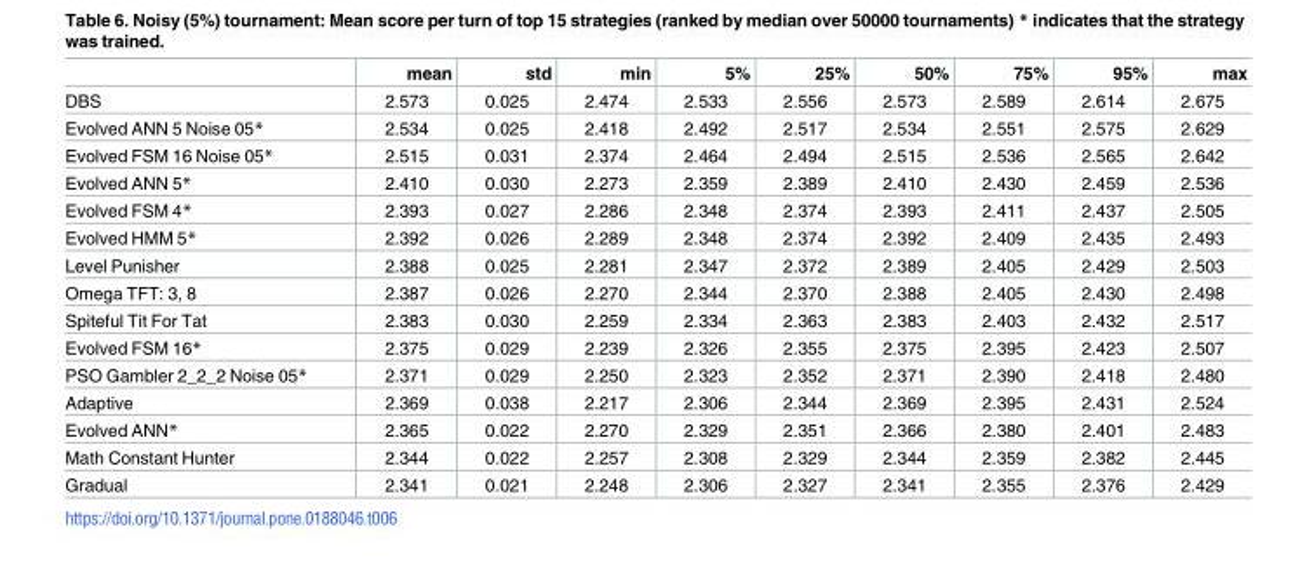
<table><thead><tr><td></td><td>mean</td><td>std</td><td>min</td><td>5%</td><td>25%</td><td>50%</td><td>75%</td><td>95%</td><td>max</td></tr></thead><tbody><tr><td>DBS</td><td>2.573</td><td>0.025</td><td>2.474</td><td>2.533</td><td>2.556</td><td>2.573</td><td>2.589</td><td>2.614</td><td>2.675</td></tr><tr><td>Evolved ANN 5 Noise 05*</td><td>2.534</td><td>0.025</td><td>2.418</td><td>2.492</td><td>2.517</td><td>2.534</td><td>2.551</td><td>2.575</td><td>2.629</td></tr><tr><td>Evolved FSM 16 Noise 05*</td><td>2.515</td><td>0.031</td><td>2.374</td><td>2.464</td><td>2.494</td><td>2.515</td><td>2.536</td><td>2.565</td><td>2.642</td></tr><tr><td>Evolved ANN 5*</td><td>2.410</td><td>0.030</td><td>2.273</td><td>2.359</td><td>2.389</td><td>2.410</td><td>2.430</td><td>2.459</td><td>2.536</td></tr><tr><td>Evolved FSM 4*</td><td>2.393</td><td>0.027</td><td>2.286</td><td>2.348</td><td>2.374</td><td>2.393</td><td>2.411</td><td>2.437</td><td>2.505</td></tr><tr><td>Evolved HMM 5*</td><td>2.392</td><td>0.026</td><td>2.289</td><td>2.348</td><td>2.374</td><td>2.392</td><td>2.409</td><td>2.435</td><td>2.493</td></tr><tr><td>Level Punisher</td><td>2.388</td><td>0.025</td><td>2.281</td><td>2.347</td><td>2.372</td><td>2.389</td><td>2.405</td><td>2.429</td><td>2.503</td></tr><tr><td>Omega TFT: 3, 8</td><td>2.387</td><td>0.026</td><td>2.270</td><td>2.344</td><td>2.370</td><td>2.388</td><td>2.405</td><td>2.430</td><td>2.498</td></tr><tr><td>Spiteful Tit For Tat</td><td>2.383</td><td>0.030</td><td>2.259</td><td>2.334</td><td>2.363</td><td>2.383</td><td>2.403</td><td>2.432</td><td>2.517</td></tr><tr><td>Evolved FSM 16*</td><td>2.375</td><td>0.029</td><td>2.239</td><td>2.326</td><td>2.355</td><td>2.375</td><td>2.395</td><td>2.423</td><td>2.507</td></tr><tr><td>PSO Gambler 2_2_2 Noise 05*</td><td>2.371</td><td>0.029</td><td>2.250</td><td>2.323</td><td>2.352</td><td>2.371</td><td>2.390</td><td>2.418</td><td>2.480</td></tr><tr><td>Adaptive</td><td>2.369</td><td>0.038</td><td>2.217</td><td>2.306</td><td>2.344</td><td>2.369</td><td>2.395</td><td>2.431</td><td>2.524</td></tr><tr><td>Evolved ANN*</td><td>2.365</td><td>0.022</td><td>2.270</td><td>2.329</td><td>2.351</td><td>2.366</td><td>2.380</td><td>2.401</td><td>2.483</td></tr><tr><td>Math Constant Hunter</td><td>2.344</td><td>0.022</td><td>2.257</td><td>2.308</td><td>2.329</td><td>2.344</td><td>2.359</td><td>2.382</td><td>2.445</td></tr><tr><td>Gradual</td><td>2.341</td><td>0.021</td><td>2.248</td><td>2.306</td><td>2.327</td><td>2.341</td><td>2.355</td><td>2.376</td><td>2.429</td></tr></tbody></table>